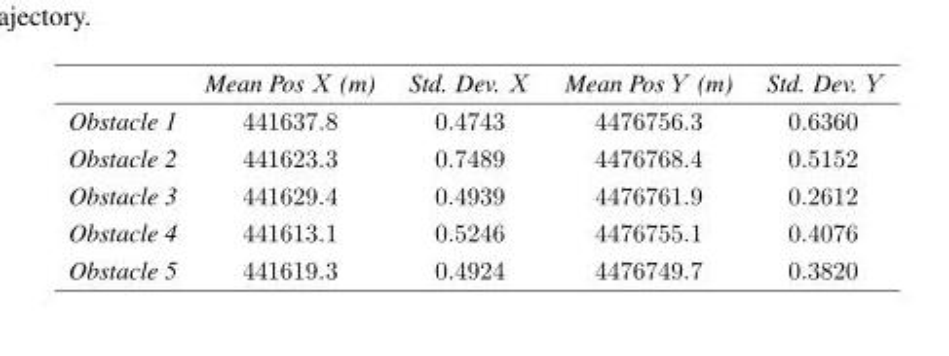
<table><thead><tr><td></td><td>Mean Pos X (m)</td><td>Std. Dev. X</td><td>Mean Pos Y (m)</td><td>Std. Dev. Y</td></tr></thead><tbody><tr><td>Obstacle 1</td><td>441637.8</td><td>0.4743</td><td>4476756.3</td><td>0.6360</td></tr><tr><td>Obstacle 2</td><td>441623.3</td><td>0.7489</td><td>4476768.4</td><td>0.5152</td></tr><tr><td>Obstacle 3</td><td>441629.4</td><td>0.4939</td><td>4476761.9</td><td>0.2612</td></tr><tr><td>Obstacle 4</td><td>441613.1</td><td>0.5246</td><td>4476755.1</td><td>0.4076</td></tr><tr><td>Obstacle 5</td><td>441619.3</td><td>0.4924</td><td>4476749.7</td><td>0.3820</td></tr></tbody></table>